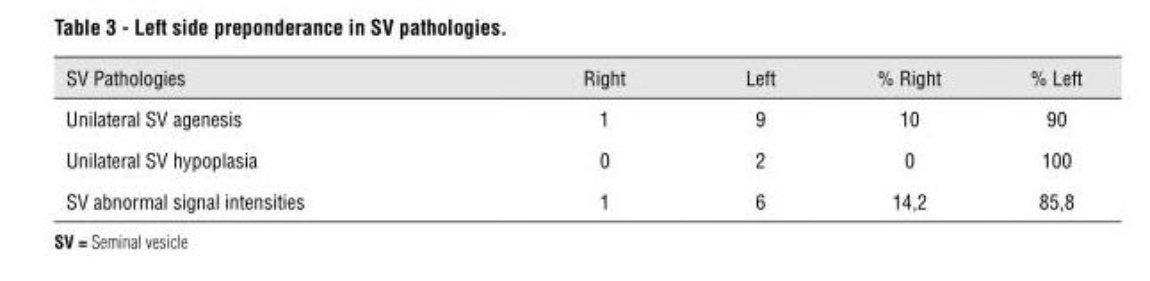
<table><thead><tr><td>SV Pathologies</td><td>Right</td><td>Left</td><td>% Right</td><td>% Left</td></tr></thead><tbody><tr><td>Unilateral SV agenesis</td><td>1</td><td>9</td><td>10</td><td>90</td></tr><tr><td>Unilateral SV hypoplasia</td><td>0</td><td>2</td><td>0</td><td>100</td></tr><tr><td>SV abnormal signal intensities</td><td>1</td><td>6</td><td>14,2</td><td>85,8</td></tr></tbody></table>